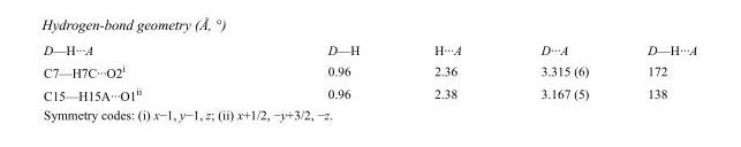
<table><tbody><tr><td>D—H···A</td><td>D—H</td><td>H···A</td><td>D···A</td><td>D—H···A</td></tr><tr><td>C7—H7C···O2<sup>i</sup></td><td>0.96</td><td>2.36</td><td>3.315 (6)</td><td>172</td></tr><tr><td>C15—H15A···O1<sup>ii</sup></td><td>0.96</td><td>2.38</td><td>3.167 (5)</td><td>138</td></tr></tbody></table>